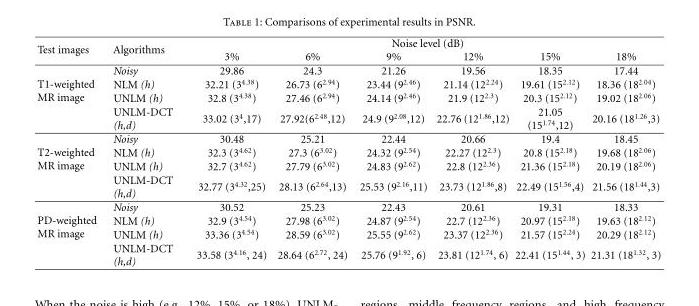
<table><thead><tr><td rowspan="2">Test images</td><td rowspan="2">Algorithms</td><td colspan="6">Noise level (dB)</td></tr><tr><td>3%</td><td>6%</td><td>9%</td><td>12%</td><td>15%</td><td>18%</td></tr></thead><tbody><tr><td rowspan="4">T1-weighted MR image</td><td>Noisy</td><td>29.86</td><td>24.3</td><td>21.26</td><td>19.56</td><td>18.35</td><td>17.44</td></tr><tr><td>NLM (h)</td><td>32.21 (3<sup>4.38</sup>)</td><td>26.73 (6<sup>2.94</sup>)</td><td>23.44 (9<sup>2.46</sup>)</td><td>21.14 (12<sup>2.24</sup>)</td><td>19.61 (15<sup>2.12</sup>)</td><td>18.36 (18<sup>2.04</sup>)</td></tr><tr><td>UNLM (h)</td><td>32.8 (3<sup>4.38</sup>)</td><td>27.46 (6<sup>2.94</sup>)</td><td>24.14 (9<sup>2.46</sup>)</td><td>21.9 (12<sup>2.3</sup>)</td><td>20.3 (15<sup>2.12</sup>)</td><td>19.02 (18<sup>2.06</sup>)</td></tr><tr><td>UNLM-DCT (h,d)</td><td>33.02 (3<sup>4</sup>,17)</td><td>27.92(6<sup>2.48</sup>,12)</td><td>24.9 (9<sup>2.08</sup>,12)</td><td>22.76 (12<sup>1.86</sup>,12)</td><td>21.05 (15<sup>1.74</sup>,12)</td><td>20.16 (18<sup>1.26</sup>,3)</td></tr><tr><td rowspan="4">T2-weighted MR image</td><td>Noisy</td><td>30.48</td><td>25.21</td><td>22.44</td><td>20.66</td><td>19.4</td><td>18.45</td></tr><tr><td>NLM (h)</td><td>32.3 (3<sup>4.62</sup>)</td><td>27.3 (6<sup>3.02</sup>)</td><td>24.32 (9<sup>2.54</sup>)</td><td>22.27 (12<sup>2.3</sup>)</td><td>20.8 (15<sup>2.18</sup>)</td><td>19.68 (18<sup>2.06</sup>)</td></tr><tr><td>UNLM (h)</td><td>32.7 (3<sup>4.62</sup>)</td><td>27.79 (6<sup>3.02</sup>)</td><td>24.83 (9<sup>2.62</sup>)</td><td>22.8 (12<sup>2.36</sup>)</td><td>21.36 (15<sup>2.18</sup>)</td><td>20.19 (18<sup>2.06</sup>)</td></tr><tr><td>UNLM-DCT (h,d)</td><td>32.77 (3<sup>4.32</sup>,25)</td><td>28.13 (6<sup>2.64</sup>,13)</td><td>25.53 (9<sup>2.16</sup>,11)</td><td>23.73 (12<sup>1.86</sup>,8)</td><td>22.49 (15<sup>1.56</sup>,4)</td><td>21.56 (18<sup>1.44</sup>,3)</td></tr><tr><td rowspan="4">PD-weighted MR image</td><td>Noisy</td><td>30.52</td><td>25.23</td><td>22.43</td><td>20.61</td><td>19.31</td><td>18.33</td></tr><tr><td>NLM (h)</td><td>32.9 (3<sup>4.54</sup>)</td><td>27.98 (6<sup>3.02</sup>)</td><td>24.87 (9<sup>2.54</sup>)</td><td>22.7 (12<sup>2.36</sup>)</td><td>20.97 (15<sup>2.18</sup>)</td><td>19.63 (18<sup>2.12</sup>)</td></tr><tr><td>UNLM (h)</td><td>33.36 (3<sup>4.54</sup>)</td><td>28.59 (6<sup>3.02</sup>)</td><td>25.55 (9<sup>2.62</sup>)</td><td>23.37 (12<sup>2.36</sup>)</td><td>21.57 (15<sup>2.24</sup>)</td><td>20.29 (18<sup>2.12</sup>)</td></tr><tr><td>UNLM-DCT (h,d)</td><td>33.58 (3<sup>4.16</sup>, 24)</td><td>28.64 (6<sup>2.72</sup>, 24)</td><td>25.76 (9<sup>1.92</sup>, 6)</td><td>23.81 (12<sup>1.74</sup>, 6)</td><td>22.41 (15<sup>1.44</sup>, 3)</td><td>21.31 (18<sup>1.32</sup>, 3)</td></tr></tbody></table>